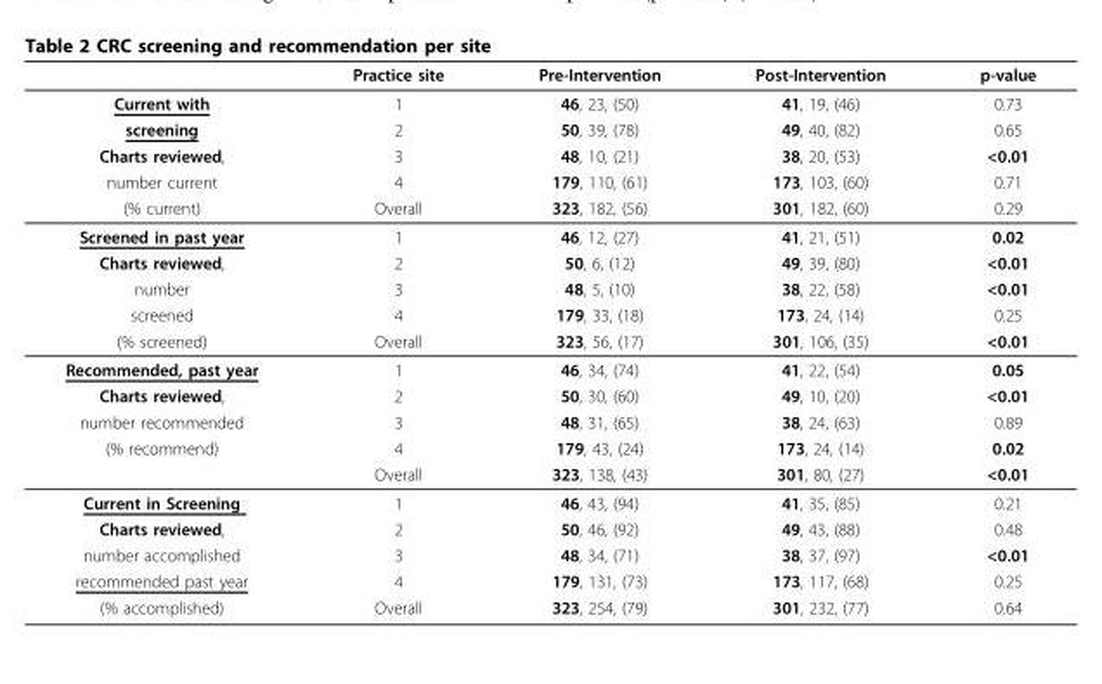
<table><thead><tr><td></td><td>Practice site</td><td>Pre-Intervention</td><td>Post-Intervention</td><td>p-value</td></tr></thead><tbody><tr><td>Current with</td><td>1</td><td>46, 23, (50)</td><td>41, 19, (46)</td><td>0.73</td></tr><tr><td>screening</td><td>2</td><td>50, 39, (78)</td><td>49, 40, (82)</td><td>0.65</td></tr><tr><td>Charts reviewed,</td><td>3</td><td>48, 10, (21)</td><td>38, 20, (53)</td><td>&lt;0.01</td></tr><tr><td>number current</td><td>4</td><td>179, 110, (61)</td><td>173, 103, (60)</td><td>0.71</td></tr><tr><td>(% current)</td><td>Overall</td><td>323, 182, (56)</td><td>301, 182, (60)</td><td>0.29</td></tr><tr><td>Screened in past year</td><td>1</td><td>46, 12, (27)</td><td>41, 21, (51)</td><td>0.02</td></tr><tr><td>Charts reviewed,</td><td>2</td><td>50, 6, (12)</td><td>49, 39, (80)</td><td>&lt;0.01</td></tr><tr><td>number</td><td>3</td><td>48, 5, (10)</td><td>38, 22, (58)</td><td>&lt;0.01</td></tr><tr><td>screened</td><td>4</td><td>179, 33, (18)</td><td>173, 24, (14)</td><td>0.25</td></tr><tr><td>(% screened)</td><td>Overall</td><td>323, 56, (17)</td><td>301, 106, (35)</td><td>&lt;0.01</td></tr><tr><td>Recommended, past year</td><td>1</td><td>46, 34, (74)</td><td>41, 22, (54)</td><td>0.05</td></tr><tr><td>Charts reviewed,</td><td>2</td><td>50, 30, (60)</td><td>49, 10, (20)</td><td>&lt;0.01</td></tr><tr><td>number recommended</td><td>3</td><td>48, 31, (65)</td><td>38, 24, (63)</td><td>0.89</td></tr><tr><td rowspan="2">(% recommend)</td><td>4</td><td>179, 43, (24)</td><td>173, 24, (14)</td><td>0.02</td></tr><tr><td>Overall</td><td>323, 138, (43)</td><td>301, 80, (27)</td><td>&lt;0.01</td></tr><tr><td>Current in Screening</td><td>1</td><td>46, 43, (94)</td><td>41, 35, (85)</td><td>0.21</td></tr><tr><td>Charts reviewed,</td><td>2</td><td>50, 46, (92)</td><td>49, 43, (88)</td><td>0.48</td></tr><tr><td>number accomplished</td><td>3</td><td>48, 34, (71)</td><td>38, 37, (97)</td><td>&lt;0.01</td></tr><tr><td>recommended past year</td><td>4</td><td>179, 131, (73)</td><td>173, 117, (68)</td><td>0.25</td></tr><tr><td>(% accomplished)</td><td>Overall</td><td>323, 254, (79)</td><td>301, 232, (77)</td><td>0.64</td></tr></tbody></table>